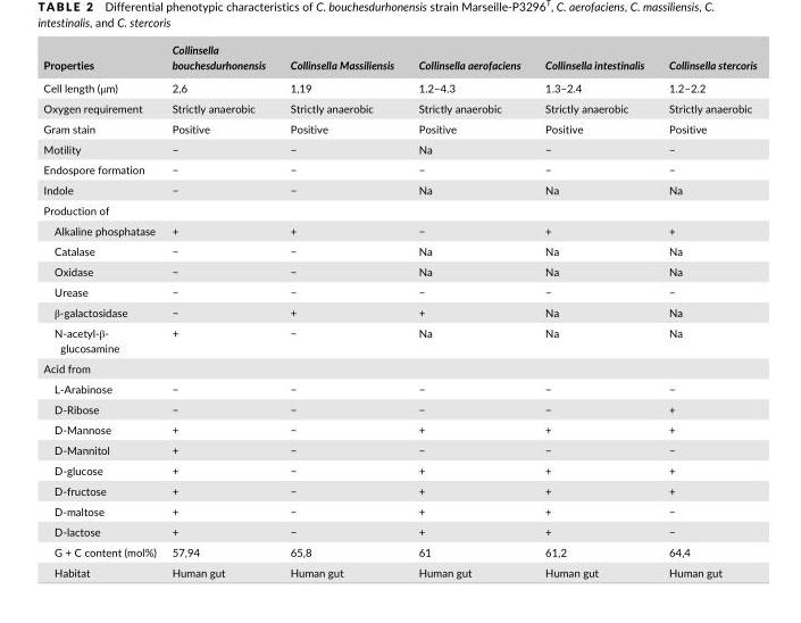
<table><thead><tr><td>Properties</td><td>Collinsella bouchesdurhonensis</td><td>Collinsella Massiliensis</td><td>Collinsella aerofaciens</td><td>Collinsella intestinalis</td><td>Collinsella stercoris</td></tr></thead><tbody><tr><td>Cell length (μm)</td><td>2,6</td><td>1,19</td><td>1.2–4.3</td><td>1.3–2.4</td><td>1.2–2.2</td></tr><tr><td>Oxygen requirement</td><td>Strictly anaerobic</td><td>Strictly anaerobic</td><td>Strictly anaerobic</td><td>Strictly anaerobic</td><td>Strictly anaerobic</td></tr><tr><td>Gram stain</td><td>Positive</td><td>Positive</td><td>Positive</td><td>Positive</td><td>Positive</td></tr><tr><td>Motility</td><td>−</td><td>−</td><td>Na</td><td>−</td><td>−</td></tr><tr><td>Endospore formation</td><td>−</td><td>−</td><td>−</td><td>−</td><td>−</td></tr><tr><td>Indole</td><td>−</td><td>−</td><td>Na</td><td>Na</td><td>Na</td></tr><tr><td colspan="6">Production of</td></tr><tr><td>Alkaline phosphatase</td><td>+</td><td>+</td><td>−</td><td>+</td><td>+</td></tr><tr><td>Catalase</td><td>−</td><td>−</td><td>Na</td><td>Na</td><td>Na</td></tr><tr><td>Oxidase</td><td>−</td><td>−</td><td>Na</td><td>Na</td><td>Na</td></tr><tr><td>Urease</td><td>−</td><td>−</td><td>−</td><td>−</td><td>−</td></tr><tr><td>β- galactosidase</td><td>−</td><td>+</td><td>+</td><td>Na</td><td>Na</td></tr><tr><td>N- acetyl- β- glucosamine</td><td>+</td><td>−</td><td>Na</td><td>Na</td><td>Na</td></tr><tr><td colspan="6">Acid from</td></tr><tr><td>L- Arabinose</td><td>−</td><td>−</td><td>−</td><td>−</td><td>−</td></tr><tr><td>D- Ribose</td><td>−</td><td>−</td><td>−</td><td>−</td><td>+</td></tr><tr><td>D- Mannose</td><td>+</td><td>−</td><td>+</td><td>+</td><td>+</td></tr><tr><td>D- Mannitol</td><td>+</td><td>−</td><td>−</td><td>−</td><td>−</td></tr><tr><td>D- glucose</td><td>+</td><td>−</td><td>+</td><td>+</td><td>+</td></tr><tr><td>D- fructose</td><td>+</td><td>−</td><td>+</td><td>+</td><td>+</td></tr><tr><td>D- maltose</td><td>+</td><td>−</td><td>+</td><td>+</td><td>−</td></tr><tr><td>D- lactose</td><td>+</td><td>−</td><td>+</td><td>+</td><td>−</td></tr><tr><td>G + C content (mol%)</td><td>57,94</td><td>65,8</td><td>61</td><td>61,2</td><td>64,4</td></tr><tr><td>Habitat</td><td>Human gut</td><td>Human gut</td><td>Human gut</td><td>Human gut</td><td>Human gut</td></tr></tbody></table>